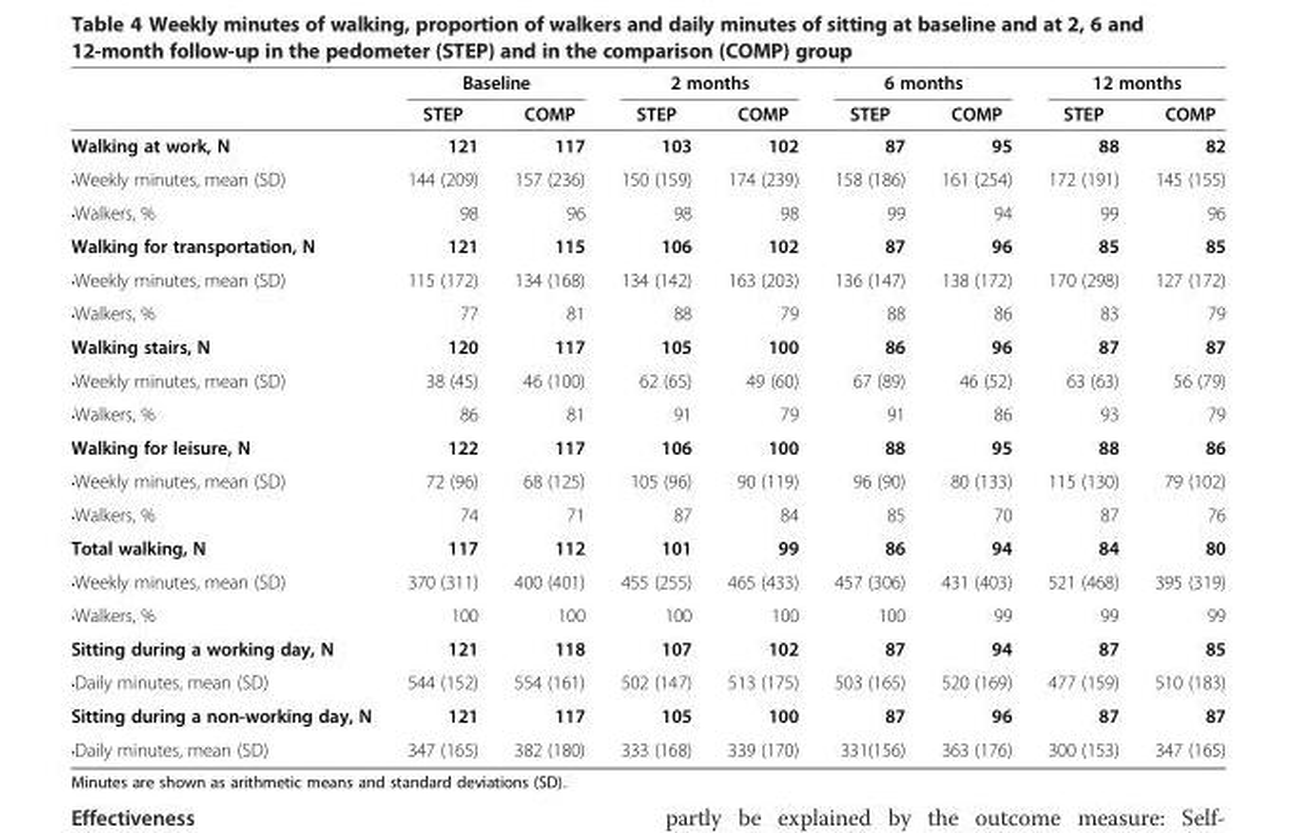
<table><thead><tr><td rowspan="2"></td><td colspan="2">Baseline</td><td colspan="2">2 months</td><td colspan="2">6 months</td><td colspan="2">12 months</td></tr><tr><td>STEP</td><td>COMP</td><td>STEP</td><td>COMP</td><td>STEP</td><td>COMP</td><td>STEP</td><td>COMP</td></tr></thead><tbody><tr><td>Walking at work, N</td><td>121</td><td>117</td><td>103</td><td>102</td><td>87</td><td>95</td><td>88</td><td>82</td></tr><tr><td>•Weekly minutes, mean (SD)</td><td>144 (209)</td><td>157 (236)</td><td>150 (159)</td><td>174 (239)</td><td>158 (186)</td><td>161 (254)</td><td>172 (191)</td><td>145 (155)</td></tr><tr><td>•Walkers, %</td><td>98</td><td>96</td><td>98</td><td>98</td><td>99</td><td>94</td><td>99</td><td>96</td></tr><tr><td>Walking for transportation, N</td><td>121</td><td>115</td><td>106</td><td>102</td><td>87</td><td>96</td><td>85</td><td>85</td></tr><tr><td>•Weekly minutes, mean (SD)</td><td>115 (172)</td><td>134 (168)</td><td>134 (142)</td><td>163 (203)</td><td>136 (147)</td><td>138 (172)</td><td>170 (298)</td><td>127 (172)</td></tr><tr><td>•Walkers, %</td><td>77</td><td>81</td><td>88</td><td>79</td><td>88</td><td>86</td><td>83</td><td>79</td></tr><tr><td>Walking stairs, N</td><td>120</td><td>117</td><td>105</td><td>100</td><td>86</td><td>96</td><td>87</td><td>87</td></tr><tr><td>•Weekly minutes, mean (SD)</td><td>38 (45)</td><td>46 (100)</td><td>62 (65)</td><td>49 (60)</td><td>67 (89)</td><td>46 (52)</td><td>63 (63)</td><td>56 (79)</td></tr><tr><td>•Walkers, %</td><td>86</td><td>81</td><td>91</td><td>79</td><td>91</td><td>86</td><td>93</td><td>79</td></tr><tr><td>Walking for leisure, N</td><td>122</td><td>117</td><td>106</td><td>100</td><td>88</td><td>95</td><td>88</td><td>86</td></tr><tr><td>•Weekly minutes, mean (SD)</td><td>72 (96)</td><td>68 (125)</td><td>105 (96)</td><td>90 (119)</td><td>96 (90)</td><td>80 (133)</td><td>115 (130)</td><td>79 (102)</td></tr><tr><td>•Walkers, %</td><td>74</td><td>71</td><td>87</td><td>84</td><td>85</td><td>70</td><td>87</td><td>76</td></tr><tr><td>Total walking, N</td><td>117</td><td>112</td><td>101</td><td>99</td><td>86</td><td>94</td><td>84</td><td>80</td></tr><tr><td>•Weekly minutes, mean (SD)</td><td>370 (311)</td><td>400 (401)</td><td>455 (255)</td><td>465 (433)</td><td>457 (306)</td><td>431 (403)</td><td>521 (468)</td><td>395 (319)</td></tr><tr><td>•Walkers, %</td><td>100</td><td>100</td><td>100</td><td>100</td><td>100</td><td>99</td><td>99</td><td>99</td></tr><tr><td>Sitting during a working day, N</td><td>121</td><td>118</td><td>107</td><td>102</td><td>87</td><td>94</td><td>87</td><td>85</td></tr><tr><td>•Daily minutes, mean (SD)</td><td>544 (152)</td><td>554 (161)</td><td>502 (147)</td><td>513 (175)</td><td>503 (165)</td><td>520 (169)</td><td>477 (159)</td><td>510 (183)</td></tr><tr><td>Sitting during a non-working day, N</td><td>121</td><td>117</td><td>105</td><td>100</td><td>87</td><td>96</td><td>87</td><td>87</td></tr><tr><td>•Daily minutes, mean (SD)</td><td>347 (165)</td><td>382 (180)</td><td>333 (168)</td><td>339 (170)</td><td>331(156)</td><td>363 (176)</td><td>300 (153)</td><td>347 (165)</td></tr></tbody></table>